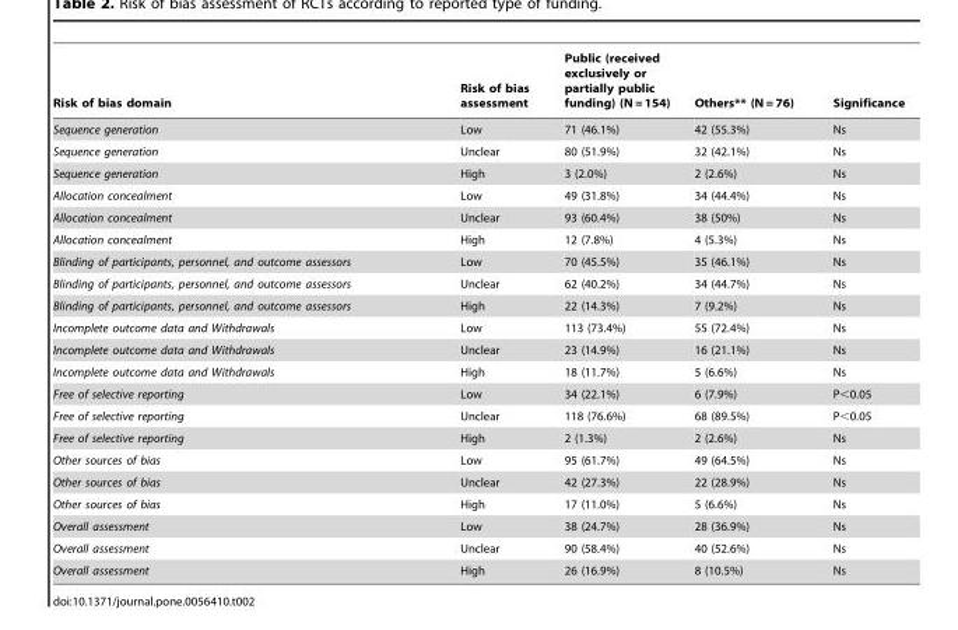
<table><thead><tr><td>Risk of bias domain</td><td>Risk of bias assessment</td><td>Public (received exclusively or partially public funding) (N = 154)</td><td>Others** (N = 76)</td><td>Significance</td></tr></thead><tbody><tr><td>Sequence generation</td><td>Low</td><td>71 (46.1%)</td><td>42 (55.3%)</td><td>Ns</td></tr><tr><td>Sequence generation</td><td>Unclear</td><td>80 (51.9%)</td><td>32 (42.1%)</td><td>Ns</td></tr><tr><td>Sequence generation</td><td>High</td><td>3 (2.0%)</td><td>2 (2.6%)</td><td>Ns</td></tr><tr><td>Allocation concealment</td><td>Low</td><td>49 (31.8%)</td><td>34 (44.4%)</td><td>Ns</td></tr><tr><td>Allocation concealment</td><td>Unclear</td><td>93 (60.4%)</td><td>38 (50%)</td><td>Ns</td></tr><tr><td>Allocation concealment</td><td>High</td><td>12 (7.8%)</td><td>4 (5.3%)</td><td>Ns</td></tr><tr><td>Blinding of participants, personnel, and outcome assessors</td><td>Low</td><td>70 (45.5%)</td><td>35 (46.1%)</td><td>Ns</td></tr><tr><td>Blinding of participants, personnel, and outcome assessors</td><td>Unclear</td><td>62 (40.2%)</td><td>34 (44.7%)</td><td>Ns</td></tr><tr><td>Blinding of participants, personnel, and outcome assessors</td><td>High</td><td>22 (14.3%)</td><td>7 (9.2%)</td><td>Ns</td></tr><tr><td>Incomplete outcome data and Withdrawals</td><td>Low</td><td>113 (73.4%)</td><td>55 (72.4%)</td><td>Ns</td></tr><tr><td>Incomplete outcome data and Withdrawals</td><td>Unclear</td><td>23 (14.9%)</td><td>16 (21.1%)</td><td>Ns</td></tr><tr><td>Incomplete outcome data and Withdrawals</td><td>High</td><td>18 (11.7%)</td><td>5 (6.6%)</td><td>Ns</td></tr><tr><td>Free of selective reporting</td><td>Low</td><td>34 (22.1%)</td><td>6 (7.9%)</td><td>P&lt;0.05</td></tr><tr><td>Free of selective reporting</td><td>Unclear</td><td>118 (76.6%)</td><td>68 (89.5%)</td><td>P&lt;0.05</td></tr><tr><td>Free of selective reporting</td><td>High</td><td>2 (1.3%)</td><td>2 (2.6%)</td><td>Ns</td></tr><tr><td>Other sources of bias</td><td>Low</td><td>95 (61.7%)</td><td>49 (64.5%)</td><td>Ns</td></tr><tr><td>Other sources of bias</td><td>Unclear</td><td>42 (27.3%)</td><td>22 (28.9%)</td><td>Ns</td></tr><tr><td>Other sources of bias</td><td>High</td><td>17 (11.0%)</td><td>5 (6.6%)</td><td>Ns</td></tr><tr><td>Overall assessment</td><td>Low</td><td>38 (24.7%)</td><td>28 (36.9%)</td><td>Ns</td></tr><tr><td>Overall assessment</td><td>Unclear</td><td>90 (58.4%)</td><td>40 (52.6%)</td><td>Ns</td></tr><tr><td>Overall assessment</td><td>High</td><td>26 (16.9%)</td><td>8 (10.5%)</td><td>Ns</td></tr></tbody></table>